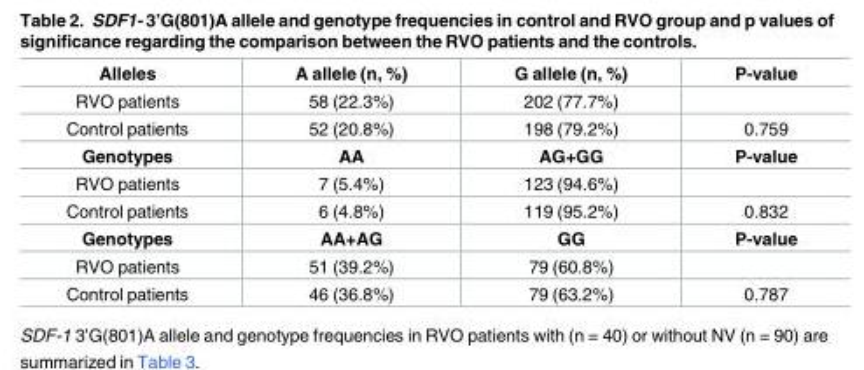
<table><tbody><tr><td>Alleles</td><td>A allele (n, %)</td><td>G allele (n, %)</td><td>P-value</td></tr><tr><td>RVO patients</td><td>58 (22.3%)</td><td>202 (77.7%)</td><td></td></tr><tr><td>Control patients</td><td>52 (20.8%)</td><td>198 (79.2%)</td><td>0.759</td></tr><tr><td>Genotypes</td><td>AA</td><td>AG+GG</td><td>P-value</td></tr><tr><td>RVO patients</td><td>7 (5.4%)</td><td>123 (94.6%)</td><td></td></tr><tr><td>Control patients</td><td>6 (4.8%)</td><td>119 (95.2%)</td><td>0.832</td></tr><tr><td>Genotypes</td><td>AA+AG</td><td>GG</td><td>P-value</td></tr><tr><td>RVO patients</td><td>51 (39.2%)</td><td>79 (60.8%)</td><td></td></tr><tr><td>Control patients</td><td>46 (36.8%)</td><td>79 (63.2%)</td><td>0.787</td></tr></tbody></table>